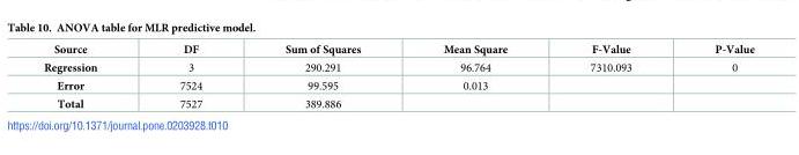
<table><thead><tr><td>Source</td><td>DF</td><td>Sum of Squares</td><td>Mean Square</td><td>F-Value</td><td>P-Value</td></tr></thead><tbody><tr><td>Regression</td><td>3</td><td>290.291</td><td>96.764</td><td>7310.093</td><td>0</td></tr><tr><td>Error</td><td>7524</td><td>99.595</td><td>0.013</td><td></td><td></td></tr><tr><td>Total</td><td>7527</td><td>389.886</td><td></td><td></td><td></td></tr></tbody></table>